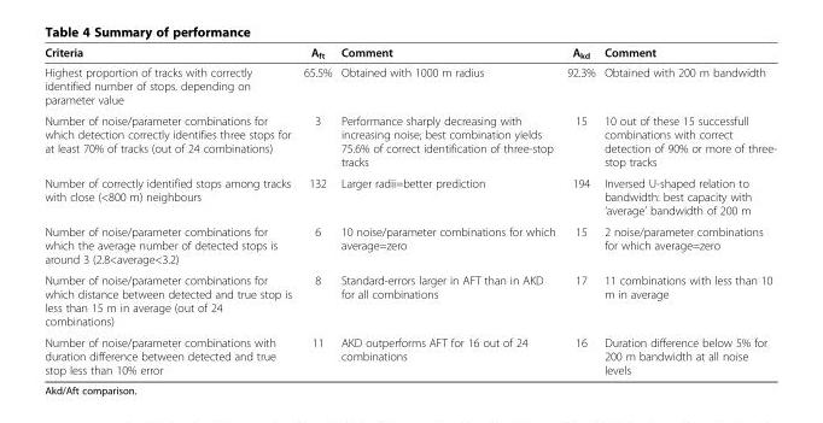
<table><thead><tr><td>Criteria</td><td>A<sub>ft</sub></td><td>Comment</td><td>A<sub>kd</sub></td><td>Comment</td></tr></thead><tbody><tr><td>Highest proportion of tracks with correctly identified number of stops. depending on parameter value</td><td>65.5%</td><td>Obtained with 1000 m radius</td><td>92.3%</td><td>Obtained with 200 m bandwidth</td></tr><tr><td>Number of noise/parameter combinations for which detection correctly identifies three stops for at least 70% of tracks (out of 24 combinations)</td><td>3</td><td>Performance sharply decreasing with increasing noise; best combination yields 75.6% of correct identification of three-stop tracks</td><td>15</td><td>10 out of these 15 successfull combinations with correct detection of 90% or more of three- stop tracks</td></tr><tr><td>Number of correctly identified stops among tracks with close (&lt;800 m) neighbours</td><td>132</td><td>Larger radii=better prediction</td><td>194</td><td>Inversed U-shaped relation to bandwidth: best capacity with ‘average’ bandwidth of 200 m</td></tr><tr><td>Number of noise/parameter combinations for which the average number of detected stops is around 3 (2.8&lt;average&lt;3.2)</td><td>6</td><td>10 noise/parameter combinations for which average=zero</td><td>15</td><td>2 noise/parameter combinations for which average=zero</td></tr><tr><td>Number of noise/parameter combinations for which distance between detected and true stop is less than 15 m in average (out of 24 combinations)</td><td>8</td><td>Standard-errors larger in AFT than in AKD for all combinations</td><td>17</td><td>11 combinations with less than 10 m in average</td></tr><tr><td>Number of noise/parameter combinations with duration difference between detected and true stop less than 10% error</td><td>11</td><td>AKD outperforms AFT for 16 out of 24 combinations</td><td>16</td><td>Duration difference below 5% for 200 m bandwidth at all noise levels</td></tr></tbody></table>